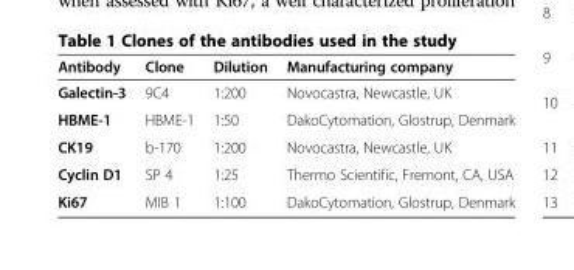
<table><thead><tr><td>Antibody</td><td>Clone</td><td>Dilution</td><td>Manufacturing company</td></tr></thead><tbody><tr><td>Galectin-3</td><td>9C4</td><td>1:200</td><td>Novocastra, Newcastle, UK</td></tr><tr><td>HBME-1</td><td>HBME-1</td><td>1:50</td><td>DakoCytomation, Glostrup, Denmark</td></tr><tr><td>CK19</td><td>b-170</td><td>1:200</td><td>Novocastra, Newcastle, UK</td></tr><tr><td>Cyclin D1</td><td>SP 4</td><td>1:25</td><td>Thermo Scientific, Fremont, CA, USA</td></tr><tr><td>Ki67</td><td>MIB 1</td><td>1:100</td><td>DakoCytomation, Glostrup, Denmark</td></tr></tbody></table>